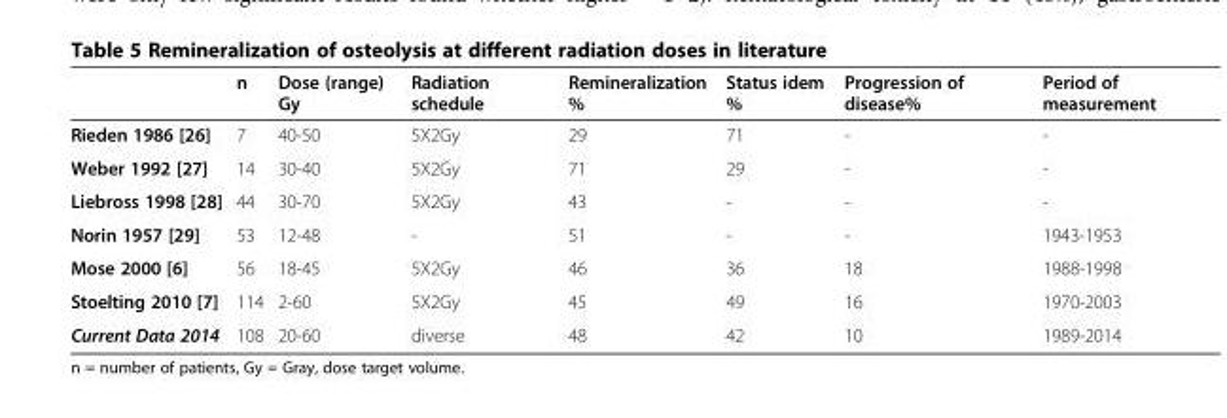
<table><thead><tr><td></td><td>n</td><td>Dose (range) Gy</td><td>Radiation schedule</td><td>Remineralization %</td><td>Status idem %</td><td>Progression of disease%</td><td>Period of measurement</td></tr></thead><tbody><tr><td>Rieden 1986 [26]</td><td>7</td><td>40-50</td><td>5X2Gy</td><td>29</td><td>71</td><td>-</td><td>-</td></tr><tr><td>Weber 1992 [27]</td><td>14</td><td>30-40</td><td>5X2Gy</td><td>71</td><td>29</td><td>-</td><td>-</td></tr><tr><td>Liebross 1998 [28]</td><td>44</td><td>30-70</td><td>5X2Gy</td><td>43</td><td>-</td><td>-</td><td>-</td></tr><tr><td>Norin 1957 [29]</td><td>53</td><td>12-48</td><td>-</td><td>51</td><td>-</td><td>-</td><td>1943-1953</td></tr><tr><td>Mose 2000 [6]</td><td>56</td><td>18-45</td><td>5X2Gy</td><td>46</td><td>36</td><td>18</td><td>1988-1998</td></tr><tr><td>Stoelting 2010 [7]</td><td>114</td><td>2-60</td><td>5X2Gy</td><td>45</td><td>49</td><td>16</td><td>1970-2003</td></tr><tr><td>Current Data 2014</td><td>108</td><td>20-60</td><td>diverse</td><td>48</td><td>42</td><td>10</td><td>1989-2014</td></tr></tbody></table>